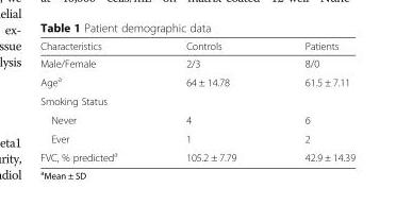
<table><thead><tr><td>Characteristics</td><td>Controls</td><td>Patients</td></tr></thead><tbody><tr><td>Male/Female</td><td>2/3</td><td>8/0</td></tr><tr><td>Age<sup>a</sup></td><td>64 ± 14.78</td><td>61.5 ± 7.11</td></tr><tr><td colspan="3">Smoking Status</td></tr><tr><td>Never</td><td>4</td><td>6</td></tr><tr><td>Ever</td><td>1</td><td>2</td></tr><tr><td>FVC, % predicted<sup>a</sup></td><td>105.2 ± 7.79</td><td>42.9 ± 14.39</td></tr></tbody></table>